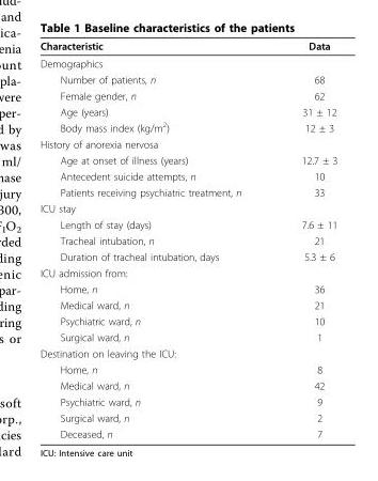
<table><thead><tr><td>Characteristic</td><td>Data</td></tr></thead><tbody><tr><td colspan="2">Demographics</td></tr><tr><td>Number of patients, n</td><td>68</td></tr><tr><td>Female gender, n</td><td>62</td></tr><tr><td>Age (years)</td><td>31 ± 12</td></tr><tr><td>Body mass index (kg/m<sup>2</sup>)</td><td>12 ± 3</td></tr><tr><td colspan="2">History of anorexia nervosa</td></tr><tr><td>Age at onset of illness (years)</td><td>12.7 ± 3</td></tr><tr><td>Antecedent suicide attempts, n</td><td>10</td></tr><tr><td>Patients receiving psychiatric treatment, n</td><td>33</td></tr><tr><td colspan="2">ICU stay</td></tr><tr><td>Length of stay (days)</td><td>7.6 ± 11</td></tr><tr><td>Tracheal intubation, n</td><td>21</td></tr><tr><td>Duration of tracheal intubation, days</td><td>5.3 ± 6</td></tr><tr><td colspan="2">ICU admission from:</td></tr><tr><td>Home, n</td><td>36</td></tr><tr><td>Medical ward, n</td><td>21</td></tr><tr><td>Psychiatric ward, n</td><td>10</td></tr><tr><td>Surgical ward, n</td><td>1</td></tr><tr><td colspan="2">Destination on leaving the ICU:</td></tr><tr><td>Home, n</td><td>8</td></tr><tr><td>Medical ward, n</td><td>42</td></tr><tr><td>Psychiatric ward, n</td><td>9</td></tr><tr><td>Surgical ward, n</td><td>2</td></tr><tr><td>Deceased, n</td><td>7</td></tr></tbody></table>